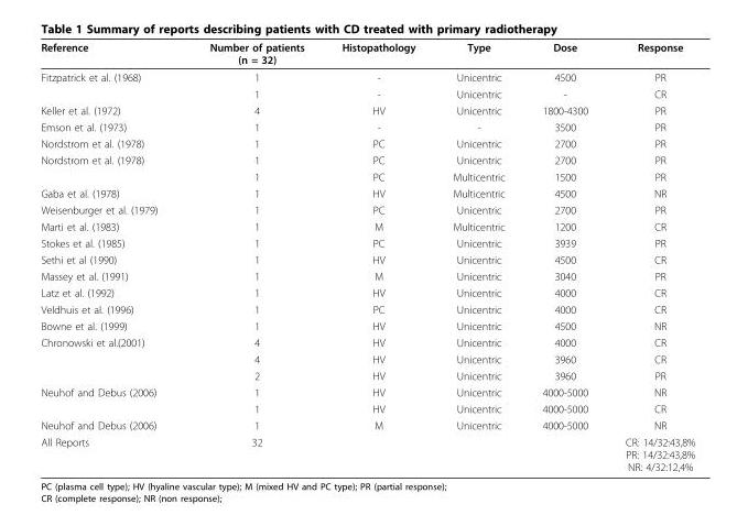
<table><thead><tr><td>Reference</td><td>Number of patients (n = 32)</td><td>Histopathology</td><td>Type</td><td>Dose</td><td>Response</td></tr></thead><tbody><tr><td rowspan="2">Fitzpatrick et al. (1968)</td><td>1</td><td>-</td><td>Unicentric</td><td>4500</td><td>PR</td></tr><tr><td>1</td><td>-</td><td>Unicentric</td><td>-</td><td>CR</td></tr><tr><td>Keller et al. (1972)</td><td>4</td><td>HV</td><td>Unicentric</td><td>1800-4300</td><td>PR</td></tr><tr><td>Emson et al. (1973)</td><td>1</td><td>-</td><td>-</td><td>3500</td><td>PR</td></tr><tr><td>Nordstrom et al. (1978)</td><td>1</td><td>PC</td><td>Unicentric</td><td>2700</td><td>PR</td></tr><tr><td rowspan="2">Nordstrom et al. (1978)</td><td>1</td><td>PC</td><td>Unicentric</td><td>2700</td><td>PR</td></tr><tr><td>1</td><td>PC</td><td>Multicentric</td><td>1500</td><td>PR</td></tr><tr><td>Gaba et al. (1978)</td><td>1</td><td>HV</td><td>Multicentric</td><td>4500</td><td>NR</td></tr><tr><td>Weisenburger et al. (1979)</td><td>1</td><td>PC</td><td>Unicentric</td><td>2700</td><td>PR</td></tr><tr><td>Marti et al. (1983)</td><td>1</td><td>M</td><td>Multicentric</td><td>1200</td><td>CR</td></tr><tr><td>Stokes et al. (1985)</td><td>1</td><td>PC</td><td>Unicentric</td><td>3939</td><td>PR</td></tr><tr><td>Sethi et al (1990)</td><td>1</td><td>HV</td><td>Unicentric</td><td>4500</td><td>CR</td></tr><tr><td>Massey et al. (1991)</td><td>1</td><td>M</td><td>Unicentric</td><td>3040</td><td>PR</td></tr><tr><td>Latz et al. (1992)</td><td>1</td><td>HV</td><td>Unicentric</td><td>4000</td><td>CR</td></tr><tr><td>Veldhuis et al. (1996)</td><td>1</td><td>PC</td><td>Unicentric</td><td>4000</td><td>CR</td></tr><tr><td>Bowne et al. (1999)</td><td>1</td><td>HV</td><td>Unicentric</td><td>4500</td><td>NR</td></tr><tr><td rowspan="3">Chronowski et al.(2001)</td><td>4</td><td>HV</td><td>Unicentric</td><td>4000</td><td>CR</td></tr><tr><td>4</td><td>HV</td><td>Unicentric</td><td>3960</td><td>CR</td></tr><tr><td>2</td><td>HV</td><td>Unicentric</td><td>3960</td><td>PR</td></tr><tr><td rowspan="2">Neuhof and Debus (2006)</td><td>1</td><td>HV</td><td>Unicentric</td><td>4000-5000</td><td>NR</td></tr><tr><td>1</td><td>HV</td><td>Unicentric</td><td>4000-5000</td><td>CR</td></tr><tr><td>Neuhof and Debus (2006)</td><td>1</td><td>M</td><td>Unicentric</td><td>4000-5000</td><td>NR</td></tr><tr><td>All Reports</td><td>32</td><td></td><td></td><td></td><td>CR: 14/32:43,8% PR: 14/32:43,8% NR: 4/32:12,4%</td></tr></tbody></table>